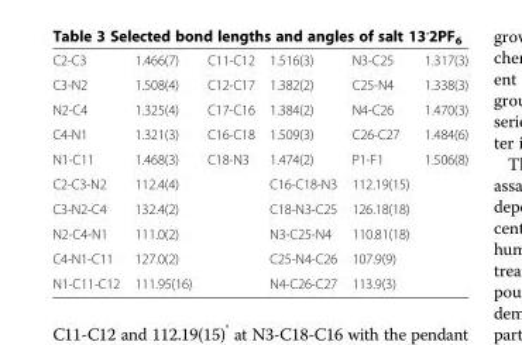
<table><thead><tr><td>C2-C3</td><td>1.466(7)</td><td>C11-C12</td><td>1.516(3)</td><td>N3-C25</td><td>1.317(3)</td></tr></thead><tbody><tr><td>C3-N2</td><td>1.508(4)</td><td>C12-C17</td><td>1.382(2)</td><td>C25-N4</td><td>1.338(3)</td></tr><tr><td>N2-C4</td><td>1.325(4)</td><td>C17-C16</td><td>1.384(2)</td><td>N4-C26</td><td>1.470(3)</td></tr><tr><td>C4-N1</td><td>1.321(3)</td><td>C16-C18</td><td>1.509(3)</td><td>C26-C27</td><td>1.484(6)</td></tr><tr><td>N1-C11</td><td>1.468(3)</td><td>C18-N3</td><td>1.474(2)</td><td>P1-F1</td><td>1.506(8)</td></tr><tr><td>C2-C3-N2</td><td>112.4(4)</td><td></td><td>C16-C18-N3</td><td>112.19(15)</td><td></td></tr><tr><td>C3-N2-C4</td><td>132.4(2)</td><td></td><td>C18-N3-C25</td><td>126.18(18)</td><td></td></tr><tr><td>N2-C4-N1</td><td>111.0(2)</td><td></td><td>N3-C25-N4</td><td>110.81(18)</td><td></td></tr><tr><td>C4-N1-C11</td><td>127.0(2)</td><td></td><td>C25-N4-C26</td><td>107.9(9)</td><td></td></tr><tr><td>N1-C11-C12</td><td>111.95(16)</td><td></td><td>N4-C26-C27</td><td>113.9(3)</td><td></td></tr></tbody></table>